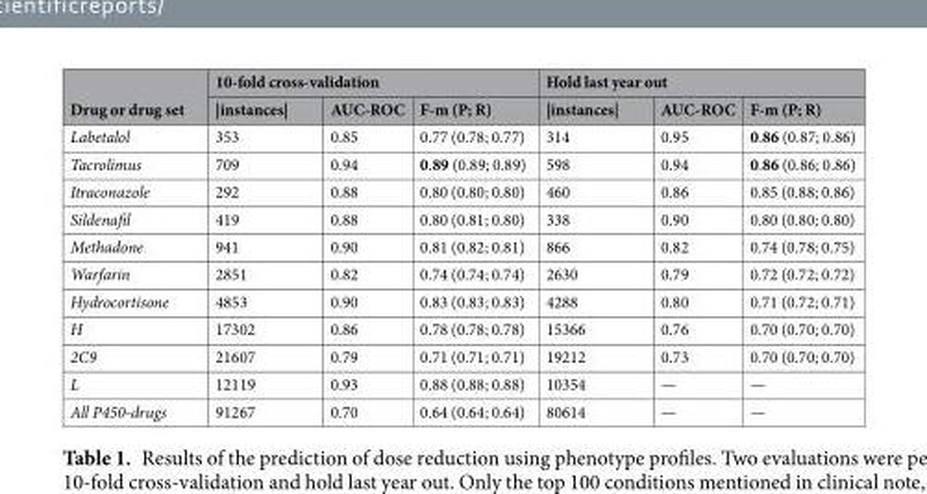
<table><thead><tr><td rowspan="2">Drug or drug set</td><td colspan="3">10-fold cross-validation</td><td colspan="3">Hold last year out</td></tr><tr><td>|instances|</td><td>AUC-ROC</td><td>F-m (P; R)</td><td>|instances|</td><td>AUC-ROC</td><td>F-m (P; R)</td></tr></thead><tbody><tr><td>Labetalol</td><td>353</td><td>0.85</td><td>0.77 (0.78; 0.77)</td><td>314</td><td>0.95</td><td>0.86 (0.87; 0.86)</td></tr><tr><td>Tacrolimus</td><td>709</td><td>0.94</td><td>0.89 (0.89; 0.89)</td><td>598</td><td>0.94</td><td>0.86 (0.86; 0.86)</td></tr><tr><td>Itraconazole</td><td>292</td><td>0.88</td><td>0.80 (0.80; 0.80)</td><td>460</td><td>0.86</td><td>0.85 (0.88; 0.86)</td></tr><tr><td>Sildenafil</td><td>419</td><td>0.88</td><td>0.80 (0.81; 0.80)</td><td>338</td><td>0.90</td><td>0.80 (0.80; 0.80)</td></tr><tr><td>Methadone</td><td>941</td><td>0.90</td><td>0.81 (0.82; 0.81)</td><td>866</td><td>0.82</td><td>0.74 (0.78; 0.75)</td></tr><tr><td>Warfarin</td><td>2851</td><td>0.82</td><td>0.74 (0.74; 0.74)</td><td>2630</td><td>0.79</td><td>0.72 (0.72; 0.72)</td></tr><tr><td>Hydrocortisone</td><td>4853</td><td>0.90</td><td>0.83 (0.83; 0.83)</td><td>4288</td><td>0.80</td><td>0.71 (0.72; 0.71)</td></tr><tr><td>H</td><td>17302</td><td>0.86</td><td>0.78 (0.78; 0.78)</td><td>15366</td><td>0.76</td><td>0.70 (0.70; 0.70)</td></tr><tr><td>2C9</td><td>21607</td><td>0.79</td><td>0.71 (0.71; 0.71)</td><td>19212</td><td>0.73</td><td>0.70 (0.70; 0.70)</td></tr><tr><td>L</td><td>12119</td><td>0.93</td><td>0.88 (0.88; 0.88)</td><td>10354</td><td>—</td><td>—</td></tr><tr><td>All P450-drugs</td><td>91267</td><td>0.70</td><td>0.64 (0.64; 0.64)</td><td>80614</td><td>—</td><td>—</td></tr></tbody></table>